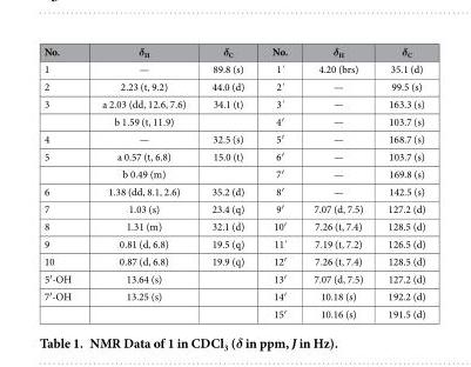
<table><thead><tr><td>No.</td><td>δ<sub>H</sub></td><td>δ<sub>C</sub></td><td>No.</td><td>δ<sub>H</sub></td><td>δ<sub>C</sub></td></tr></thead><tbody><tr><td>1</td><td>—</td><td>89.8 (s)</td><td>1&#x27;</td><td>4.20 (brs)</td><td>35.1 (d)</td></tr><tr><td>2</td><td>2.23 (t, 9.2)</td><td>44.0 (d)</td><td>2&#x27;</td><td>—</td><td>99.5 (s)</td></tr><tr><td rowspan="2">3</td><td>a 2.03 (dd, 12.6, 7.6)</td><td>34.1 (t)</td><td>3&#x27;</td><td>—</td><td>163.3 (s)</td></tr><tr><td>b 1.59 (t, 11.9)</td><td></td><td>4′</td><td>—</td><td>103.7 (s)</td></tr><tr><td>4</td><td>—</td><td>32.5 (s)</td><td>5′</td><td>—</td><td>168.7 (s)</td></tr><tr><td rowspan="2">5</td><td>a 0.57 (t, 6.8)</td><td>15.0 (t)</td><td>6′</td><td>—</td><td>103.7 (s)</td></tr><tr><td>b 0.49 (m)</td><td></td><td>7′</td><td>—</td><td>169.8 (s)</td></tr><tr><td>6</td><td>1.38 (dd, 8.1, 2.6)</td><td>35.2 (d)</td><td>8′</td><td>—</td><td>142.5 (s)</td></tr><tr><td>7</td><td>1.03 (s)</td><td>23.4 (q)</td><td>9′</td><td>7.07 (d, 7.5)</td><td>127.2 (d)</td></tr><tr><td>8</td><td>1.31 (m)</td><td>32.1 (d)</td><td>10′</td><td>7.26 (t, 7.4)</td><td>128.5 (d)</td></tr><tr><td>9</td><td>0.81 (d, 6.8)</td><td>19.5 (q)</td><td>11&#x27;</td><td>7.19 (t, 7.2)</td><td>126.5 (d)</td></tr><tr><td>10</td><td>0.87 (d, 6.8)</td><td>19.9 (q)</td><td>12′</td><td>7.26 (t, 7.4)</td><td>128.5 (d)</td></tr><tr><td>5′ -OH</td><td>13.64 (s)</td><td></td><td>13′</td><td>7.07 (d, 7.5)</td><td>127.2 (d)</td></tr><tr><td rowspan="2">7′ -OH</td><td>13.25 (s)</td><td></td><td>14′</td><td>10.18 (s)</td><td>192.2 (d)</td></tr><tr><td></td><td></td><td>15′</td><td>10.16 (s)</td><td>191.5 (d)</td></tr></tbody></table>